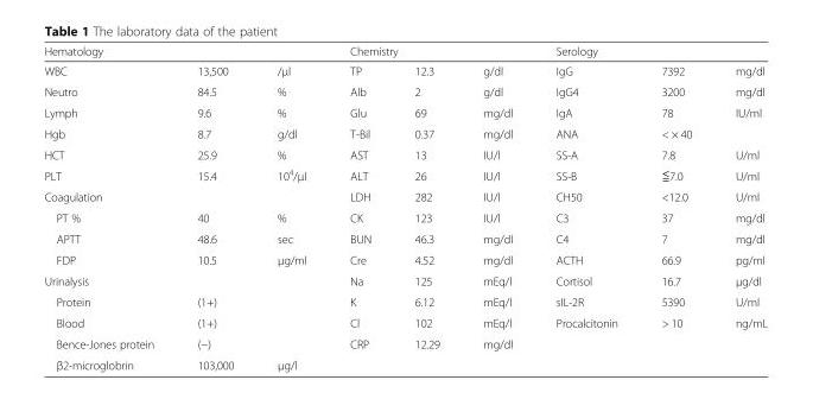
<table><thead><tr><td colspan="3">Hematology</td><td colspan="3">Chemistry</td><td colspan="3">Serology</td></tr><tr><td>WBC</td><td>13,500</td><td>/μl</td><td>TP</td><td>12.3</td><td>g/dl</td><td>IgG</td><td>7392</td><td>mg/dl</td></tr></thead><tbody><tr><td>Neutro</td><td>84.5</td><td>%</td><td>Alb</td><td>2</td><td>g/dl</td><td>IgG4</td><td>3200</td><td>mg/dl</td></tr><tr><td>Lymph</td><td>9.6</td><td>%</td><td>Glu</td><td>69</td><td>mg/dl</td><td>IgA</td><td>78</td><td>IU/ml</td></tr><tr><td>Hgb</td><td>8.7</td><td>g/dl</td><td>T-Bil</td><td>0.37</td><td>mg/dl</td><td>ANA</td><td>&lt; × 40</td><td></td></tr><tr><td>HCT</td><td>25.9</td><td>%</td><td>AST</td><td>13</td><td>IU/l</td><td>SS-A</td><td>7.8</td><td>U/ml</td></tr><tr><td>PLT</td><td>15.4</td><td>10<sup>4</sup>/μl</td><td>ALT</td><td>26</td><td>IU/l</td><td>SS-B</td><td>≦7.0</td><td>U/ml</td></tr><tr><td colspan="3">Coagulation</td><td>LDH</td><td>282</td><td>IU/l</td><td>CH50</td><td>&lt;12.0</td><td>U/ml</td></tr><tr><td>PT %</td><td>40</td><td>%</td><td>CK</td><td>123</td><td>IU/l</td><td>C3</td><td>37</td><td>mg/dl</td></tr><tr><td>APTT</td><td>48.6</td><td>sec</td><td>BUN</td><td>46.3</td><td>mg/dl</td><td>C4</td><td>7</td><td>mg/dl</td></tr><tr><td>FDP</td><td>10.5</td><td>μg/ml</td><td>Cre</td><td>4.52</td><td>mg/dl</td><td>ACTH</td><td>66.9</td><td>pg/ml</td></tr><tr><td colspan="3">Urinalysis</td><td>Na</td><td>125</td><td>mEq/l</td><td>Cortisol</td><td>16.7</td><td>μg/dl</td></tr><tr><td>Protein</td><td>(1+)</td><td></td><td>K</td><td>6.12</td><td>mEq/l</td><td>sIL-2R</td><td>5390</td><td>U/ml</td></tr><tr><td>Blood</td><td>(1+)</td><td></td><td>Cl</td><td>102</td><td>mEq/l</td><td>Procalcitonin</td><td>&gt; 10</td><td>ng/mL</td></tr><tr><td>Bence-Jones protein</td><td>(−)</td><td></td><td>CRP</td><td>12.29</td><td>mg/dl</td><td></td><td></td><td></td></tr><tr><td>β2-microglobrin</td><td>103,000</td><td>μg/l</td><td></td><td></td><td></td><td></td><td></td><td></td></tr></tbody></table>